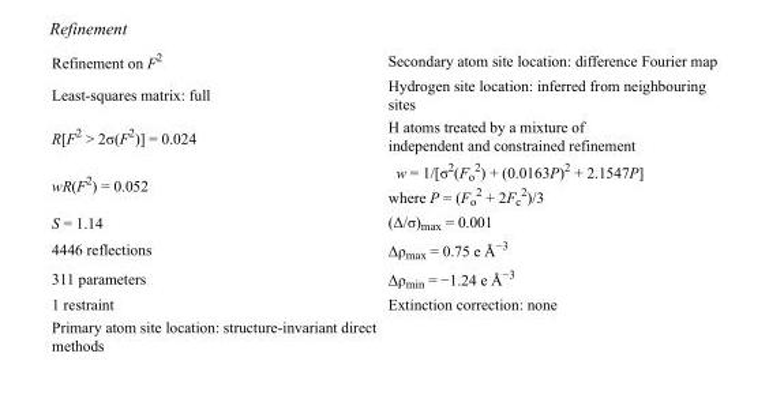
<table><tbody><tr><td>Refinement on F<sup>2</sup></td><td>Secondary atom site location: difference Fourier map</td></tr><tr><td>Least-squares matrix: full</td><td>Hydrogen site location: inferred from neighbouring sites</td></tr><tr><td>R[F<sup>2</sup> &gt; 2σ(F<sup>2</sup>)] = 0.024</td><td>H atoms treated by a mixture of independent and constrained refinement</td></tr><tr><td>wR(F<sup>2</sup>) = 0.052</td><td>w = 1/[σ<sup>2</sup>(F<sub>o</sub> <sup>2</sup>) + (0.0163P)<sup>2</sup> + 2.1547P] where P = (F<sub>o</sub> <sup>2</sup> + 2F<sub>c</sub> <sup>2</sup>)/3</td></tr><tr><td>S = 1.14</td><td>(Δ/σ)<sub>max</sub> = 0.001</td></tr><tr><td>4446 reflections</td><td>Δρ<sub>max</sub> = 0.75 e Å<sup>−3</sup></td></tr><tr><td>311 parameters</td><td>Δρ<sub>min</sub> = −1.24 e Å<sup>−3</sup></td></tr><tr><td>1 restraint</td><td>Extinction correction: none</td></tr><tr><td>Primary atom site location: structure-invariant direct methods</td><td></td></tr></tbody></table>